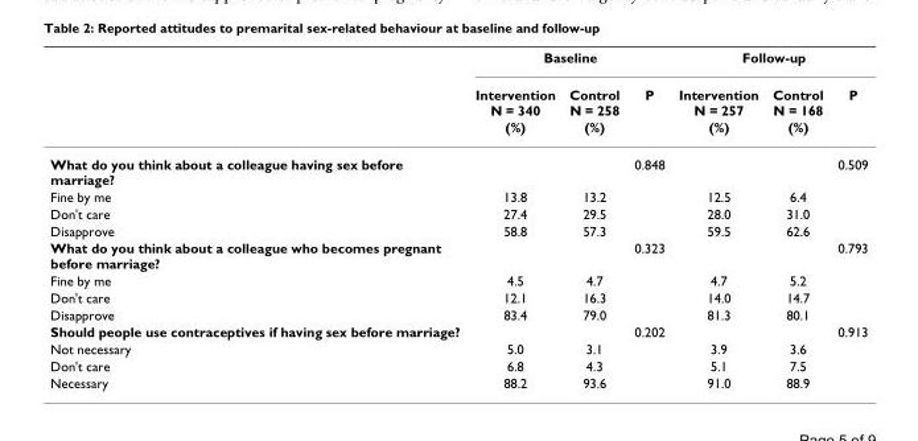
<table><thead><tr><td rowspan="3"></td><td colspan="3">Baseline</td><td colspan="3">Follow-up</td></tr><tr><td rowspan="2">Intervention N = 340 (%)</td><td rowspan="2">Control N = 258 (%)</td><td rowspan="2">P</td><td rowspan="2">Intervention N = 257 (%)</td><td rowspan="2">Control N = 168 (%)</td><td rowspan="2">P</td></tr><tr></tr></thead><tbody><tr><td>What do you think about a colleague having sex before marriage?</td><td></td><td></td><td>0.848</td><td></td><td></td><td>0.509</td></tr><tr><td>Fine by me</td><td>13.8</td><td>13.2</td><td></td><td>12.5</td><td>6.4</td><td></td></tr><tr><td>Don&#x27;t care</td><td>27.4</td><td>29.5</td><td></td><td>28.0</td><td>31.0</td><td></td></tr><tr><td>Disapprove</td><td>58.8</td><td>57.3</td><td></td><td>59.5</td><td>62.6</td><td></td></tr><tr><td>What do you think about a colleague who becomes pregnant before marriage?</td><td></td><td></td><td>0.323</td><td></td><td></td><td>0.793</td></tr><tr><td>Fine by me</td><td>4.5</td><td>4.7</td><td></td><td>4.7</td><td>5.2</td><td></td></tr><tr><td>Don&#x27;t care</td><td>12.1</td><td>16.3</td><td></td><td>14.0</td><td>14.7</td><td></td></tr><tr><td>Disapprove</td><td>83.4</td><td>79.0</td><td></td><td>81.3</td><td>80.1</td><td></td></tr><tr><td>Should people use contraceptives if having sex before marriage?</td><td></td><td></td><td>0.202</td><td></td><td></td><td>0.913</td></tr><tr><td>Not necessary</td><td>5.0</td><td>3.1</td><td></td><td>3.9</td><td>3.6</td><td></td></tr><tr><td>Don&#x27;t care</td><td>6.8</td><td>4.3</td><td></td><td>5.1</td><td>7.5</td><td></td></tr><tr><td>Necessary</td><td>88.2</td><td>93.6</td><td></td><td>91.0</td><td>88.9</td><td></td></tr></tbody></table>